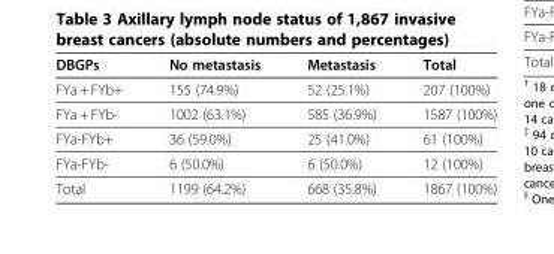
<table><thead><tr><td>DBGPs</td><td>No metastasis</td><td>Metastasis</td><td>Total</td></tr></thead><tbody><tr><td>FYa + FYb+</td><td>155 (74.9%)</td><td>52 (25.1%)</td><td>207 (100%)</td></tr><tr><td>FYa + FYb-</td><td>1002 (63.1%)</td><td>585 (36.9%)</td><td>1587 (100%)</td></tr><tr><td>FYa-FYb+</td><td>36 (59.0%)</td><td>25 (41.0%)</td><td>61 (100%)</td></tr><tr><td>FYa-FYb-</td><td>6 (50.0%)</td><td>6 (50.0%)</td><td>12 (100%)</td></tr><tr><td>Total</td><td>1199 (64.2%)</td><td>668 (35.8%)</td><td>1867 (100%)</td></tr></tbody></table>